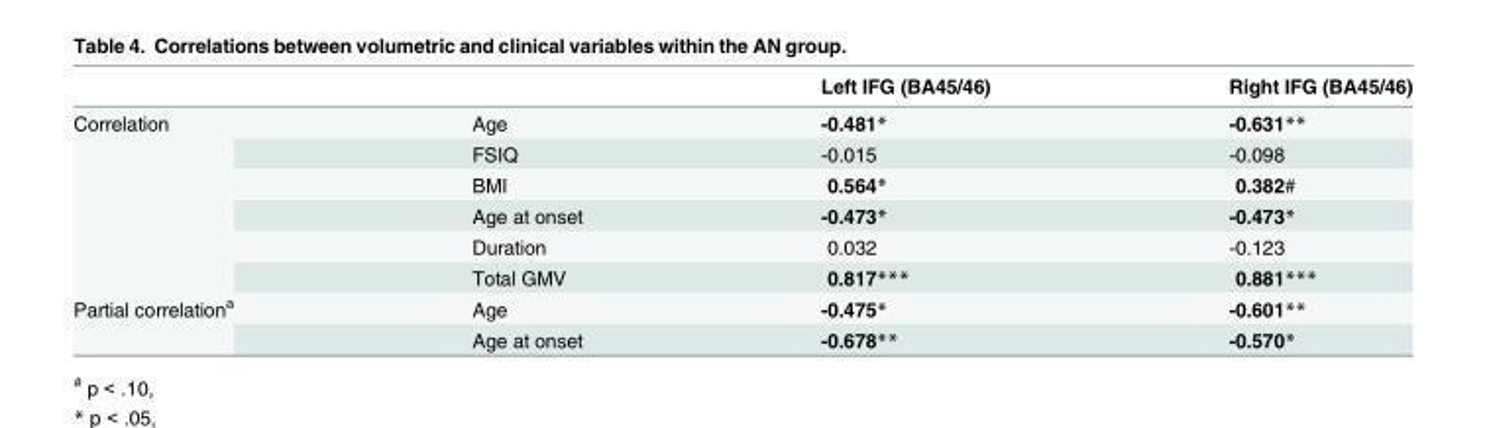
<table><thead><tr><td></td><td></td><td>Left IFG (BA45/46)</td><td>Right IFG (BA45/46)</td></tr></thead><tbody><tr><td rowspan="6">Correlation</td><td>Age</td><td>-0.481*</td><td>-0.631**</td></tr><tr><td>FSIQ</td><td>-0.015</td><td>-0.098</td></tr><tr><td>BMI</td><td>0.564*</td><td>0.382#</td></tr><tr><td>Age at onset</td><td>-0.473*</td><td>-0.473*</td></tr><tr><td>Duration</td><td>0.032</td><td>-0.123</td></tr><tr><td>Total GMV</td><td>0.817***</td><td>0.881***</td></tr><tr><td rowspan="2">Partial correlation<sup>a</sup></td><td>Age</td><td>-0.475*</td><td>-0.601**</td></tr><tr><td>Age at onset</td><td>-0.678**</td><td>-0.570*</td></tr></tbody></table>